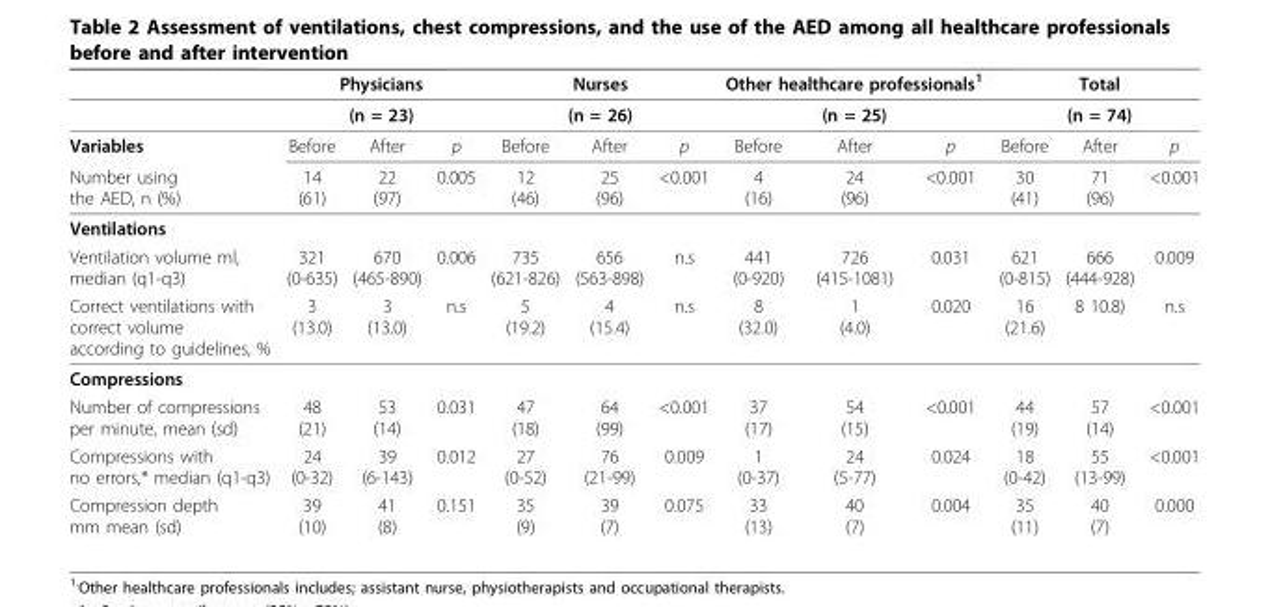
<table><thead><tr><td rowspan="3">Variables</td><td rowspan="2" colspan="3">Physicians (n = 23)</td><td rowspan="2" colspan="3">Nurses (n = 26)</td><td rowspan="2" colspan="3">Other healthcare professionals1 (n = 25)</td><td rowspan="2" colspan="3">Total (n = 74)</td></tr><tr></tr><tr><td>Before</td><td>After</td><td>p</td><td>Before</td><td>After</td><td>p</td><td>Before</td><td>After</td><td>p</td><td>Before</td><td>After</td><td>p</td></tr></thead><tbody><tr><td>Number using the AED, n (%)</td><td>14 (61)</td><td>22 (97)</td><td>0.005</td><td>12 (46)</td><td>25 (96)</td><td>&lt;0.001</td><td>4 (16)</td><td>24 (96)</td><td>&lt;0.001</td><td>30 (41)</td><td>71 (96)</td><td>&lt;0.001</td></tr><tr><td colspan="13">Ventilations</td></tr><tr><td>Ventilation volume ml, median (q1-q3)</td><td>321 (0-635)</td><td>670 (465-890)</td><td>0.006</td><td>735 (621-826)</td><td>656 (563-898)</td><td>n.s</td><td>441 (0-920)</td><td>726 (415-1081)</td><td>0.031</td><td>621 (0-815)</td><td>666 (444-928)</td><td>0.009</td></tr><tr><td>Correct ventilations with correct volume according to guidelines, %</td><td>3 (13.0)</td><td>3 (13.0)</td><td>n.s</td><td>5 (19.2)</td><td>4 (15.4)</td><td>n.s</td><td>8 (32.0)</td><td>1 (4.0)</td><td>0.020</td><td>16 (21.6)</td><td>8 10.8)</td><td>n.s</td></tr><tr><td colspan="13">Compressions</td></tr><tr><td>Number of compressions per minute, mean (sd)</td><td>48 (21)</td><td>53 (14)</td><td>0.031</td><td>47 (18)</td><td>64 (99)</td><td>&lt;0.001</td><td>37 (17)</td><td>54 (15)</td><td>&lt;0.001</td><td>44 (19)</td><td>57 (14)</td><td>&lt;0.001</td></tr><tr><td>Compressions with no errors,* median (q1-q3)</td><td>24 (0-32)</td><td>39 (6-143)</td><td>0.012</td><td>27 (0-52)</td><td>76 (21-99)</td><td>0.009</td><td>1 (0-37)</td><td>24 (5-77)</td><td>0.024</td><td>18 (0-42)</td><td>55 (13-99)</td><td>&lt;0.001</td></tr><tr><td>Compression depth mm mean (sd)</td><td>39 (10)</td><td>41 (8)</td><td>0.151</td><td>35 (9)</td><td>39 (7)</td><td>0.075</td><td>33 (13)</td><td>40 (7)</td><td>0.004</td><td>35 (11)</td><td>40 (7)</td><td>0.000</td></tr></tbody></table>